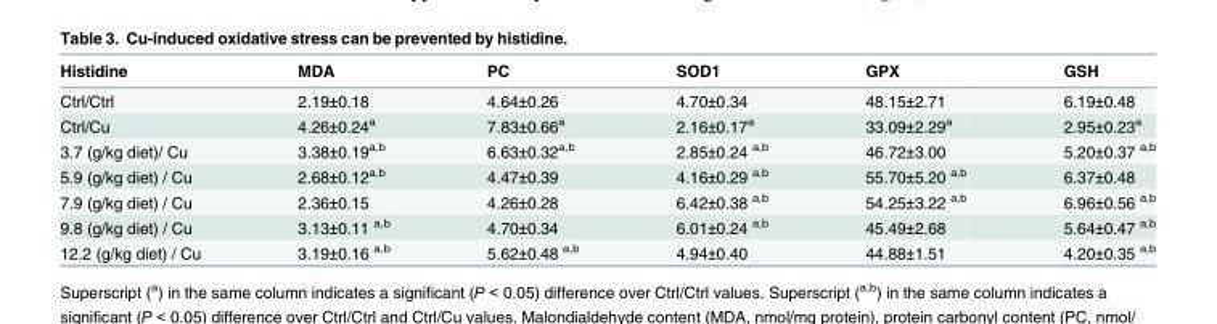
<table><thead><tr><td>Histidine</td><td>MDA</td><td>PC</td><td>SOD1</td><td>GPX</td><td>GSH</td></tr></thead><tbody><tr><td>Ctrl/Ctrl</td><td>2.19±0.18</td><td>4.64±0.26</td><td>4.70±0.34</td><td>48.15±2.71</td><td>6.19±0.48</td></tr><tr><td>Ctrl/Cu</td><td>4.26±0.24<sup>a</sup></td><td>7.83±0.66<sup>a</sup></td><td>2.16±0.17<sup>a</sup></td><td>33.09±2.29<sup>a</sup></td><td>2.95±0.23<sup>a</sup></td></tr><tr><td>3.7 (g/kg diet)/ Cu</td><td>3.38±0.19<sup>a,b</sup></td><td>6.63±0.32<sup>a,b</sup></td><td>2.85±0.24 <sup>a,b</sup></td><td>46.72±3.00</td><td>5.20±0.37 <sup>a,b</sup></td></tr><tr><td>5.9 (g/kg diet) / Cu</td><td>2.68±0.12<sup>a,b</sup></td><td>4.47±0.39</td><td>4.16±0.29 <sup>a,b</sup></td><td>55.70±5.20 <sup>a,b</sup></td><td>6.37±0.48</td></tr><tr><td>7.9 (g/kg diet) / Cu</td><td>2.36±0.15</td><td>4.26±0.28</td><td>6.42±0.38 <sup>a,b</sup></td><td>54.25±3.22 <sup>a,b</sup></td><td>6.96±0.56 <sup>a,b</sup></td></tr><tr><td>9.8 (g/kg diet) / Cu</td><td>3.13±0.11 <sup>a,b</sup></td><td>4.70±0.34</td><td>6.01±0.24 <sup>a,b</sup></td><td>45.49±2.68</td><td>5.64±0.47 <sup>a,b</sup></td></tr><tr><td>12.2 (g/kg diet) / Cu</td><td>3.19±0.16 <sup>a,b</sup></td><td>5.62±0.48 <sup>a,b</sup></td><td>4.94±0.40</td><td>44.88±1.51</td><td>4.20±0.35 <sup>a,b</sup></td></tr></tbody></table>